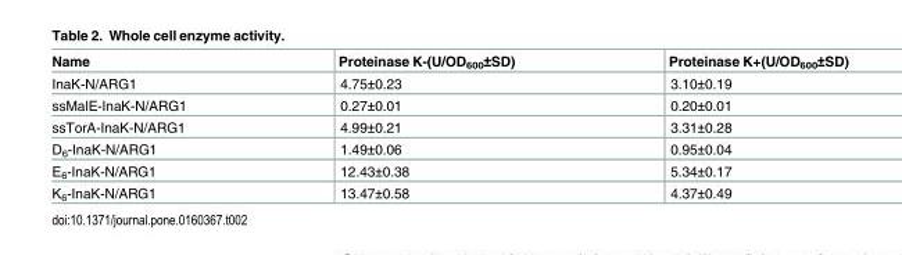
<table><thead><tr><td>Name</td><td>Proteinase K-(U/OD<sub>600</sub>±SD)</td><td>Proteinase K+(U/OD<sub>600</sub>±SD)</td></tr></thead><tbody><tr><td>InaK-N/ARG1</td><td>4.75±0.23</td><td>3.10±0.19</td></tr><tr><td>ssMalE-InaK-N/ARG1</td><td>0.27±0.01</td><td>0.20±0.01</td></tr><tr><td>ssTorA-InaK-N/ARG1</td><td>4.99±0.21</td><td>3.31±0.28</td></tr><tr><td>D<sub>6</sub>-InaK-N/ARG1</td><td>1.49±0.06</td><td>0.95±0.04</td></tr><tr><td>E<sub>6</sub>-InaK-N/ARG1</td><td>12.43±0.38</td><td>5.34±0.17</td></tr><tr><td>K<sub>6</sub>-InaK-N/ARG1</td><td>13.47±0.58</td><td>4.37±0.49</td></tr></tbody></table>